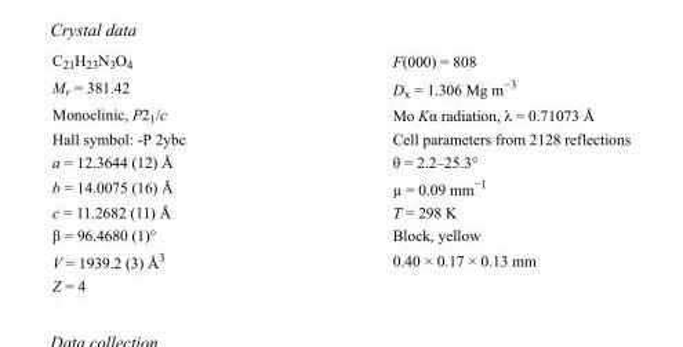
<table><tbody><tr><td>C<sub>21</sub>H<sub>23</sub>N<sub>3</sub>O<sub>4</sub></td><td>F(000) = 808</td></tr><tr><td>M<sub>r</sub> = 381.42</td><td>D<sub>x</sub> = 1.306 Mg m<sup>−3</sup></td></tr><tr><td>Monoclinic, P2<sub>1</sub>/c</td><td>Mo Kα radiation, λ = 0.71073 Å</td></tr><tr><td>Hall symbol: -P 2ybc</td><td>Cell parameters from 2128 reflections</td></tr><tr><td>a = 12.3644 (12) Å</td><td>θ = 2.2–25.3°</td></tr><tr><td>b = 14.0075 (16) Å</td><td>µ = 0.09 mm<sup>−1</sup></td></tr><tr><td>c = 11.2682 (11) Å</td><td>T = 298 K</td></tr><tr><td>β = 96.4680 (1)°</td><td>Block, yellow</td></tr><tr><td>V = 1939.2 (3) Å<sup>3</sup></td><td>0.40 × 0.17 × 0.13 mm</td></tr><tr><td>Z = 4</td><td></td></tr></tbody></table>